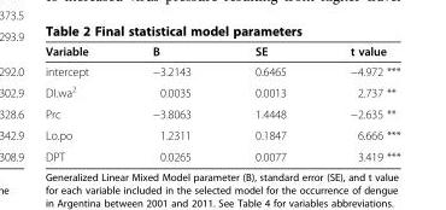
<table><thead><tr><td>Variable</td><td>B</td><td>SE</td><td>t value</td></tr></thead><tbody><tr><td>intercept</td><td>−3.2143</td><td>0.6465</td><td>−4.972 ***</td></tr><tr><td>DI.wa<sup>2</sup></td><td>0.0035</td><td>0.0013</td><td>2.737 **</td></tr><tr><td>Prc</td><td>−3.8063</td><td>1.4448</td><td>−2.635 **</td></tr><tr><td>Lo.po</td><td>1.2311</td><td>0.1847</td><td>6.666 ***</td></tr><tr><td>DPT</td><td>0.0265</td><td>0.0077</td><td>3.419 ***</td></tr></tbody></table>